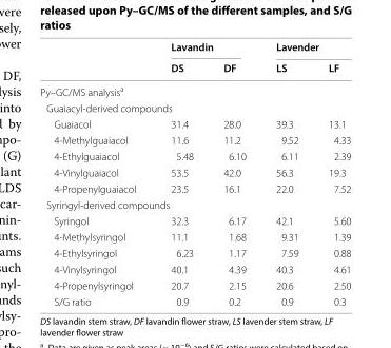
<table><thead><tr><td rowspan="2"></td><td colspan="2">Lavandin</td><td colspan="2">Lavender</td></tr><tr><td>DS</td><td>DF</td><td>LS</td><td>LF</td></tr></thead><tbody><tr><td colspan="5">Py–GC/MS analysis<sup>a</sup></td></tr><tr><td colspan="5">Guaiacyl‑derived compounds</td></tr><tr><td>Guaiacol</td><td>31.4</td><td>28.0</td><td>39.3</td><td>13.1</td></tr><tr><td>4‑Methylguaiacol</td><td>11.6</td><td>11.2</td><td>9.52</td><td>4.33</td></tr><tr><td>4‑Ethylguaiacol</td><td>5.48</td><td>6.10</td><td>6.11</td><td>2.39</td></tr><tr><td>4‑Vinylguaiacol</td><td>53.5</td><td>42.0</td><td>56.3</td><td>19.3</td></tr><tr><td>4‑Propenylguaiacol</td><td>23.5</td><td>16.1</td><td>22.0</td><td>7.52</td></tr><tr><td colspan="5">Syringyl‑derived compounds</td></tr><tr><td>Syringol</td><td>32.3</td><td>6.17</td><td>42.1</td><td>5.60</td></tr><tr><td>4‑Methylsyringol</td><td>11.1</td><td>1.68</td><td>9.31</td><td>1.39</td></tr><tr><td>4‑Ethylsyringol</td><td>6.23</td><td>1.17</td><td>7.59</td><td>0.88</td></tr><tr><td>4‑Vinylsyringol</td><td>40.1</td><td>4.39</td><td>40.3</td><td>4.61</td></tr><tr><td>4‑Propenylsyringol</td><td>20.7</td><td>2.15</td><td>20.6</td><td>2.50</td></tr><tr><td>S/G ratio</td><td>0.9</td><td>0.2</td><td>0.9</td><td>0.3</td></tr></tbody></table>